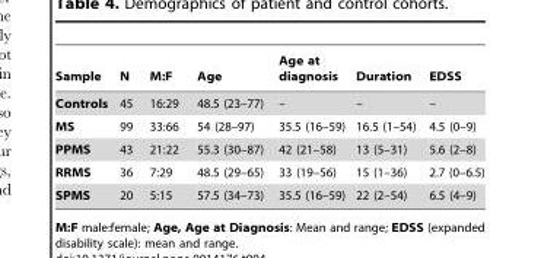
<table><thead><tr><td>Sample</td><td>N</td><td>M:F</td><td>Age</td><td>Age at diagnosis</td><td>Duration</td><td>EDSS</td></tr></thead><tbody><tr><td>Controls</td><td>45</td><td>16:29</td><td>48.5 (23–77)</td><td>–</td><td>–</td><td>–</td></tr><tr><td>MS</td><td>99</td><td>33:66</td><td>54 (28–97)</td><td>35.5 (16–59)</td><td>16.5 (1–54)</td><td>4.5 (0–9)</td></tr><tr><td>PPMS</td><td>43</td><td>21:22</td><td>55.3 (30–87)</td><td>42 (21–58)</td><td>13 (5–31)</td><td>5.6 (2–8)</td></tr><tr><td>RRMS</td><td>36</td><td>7:29</td><td>48.5 (29–65)</td><td>33 (19–56)</td><td>15 (1–36)</td><td>2.7 (0–6.5)</td></tr><tr><td>SPMS</td><td>20</td><td>5:15</td><td>57.5 (34–73)</td><td>35.5 (16–59)</td><td>22 (2–54)</td><td>6.5 (4–9)</td></tr></tbody></table>